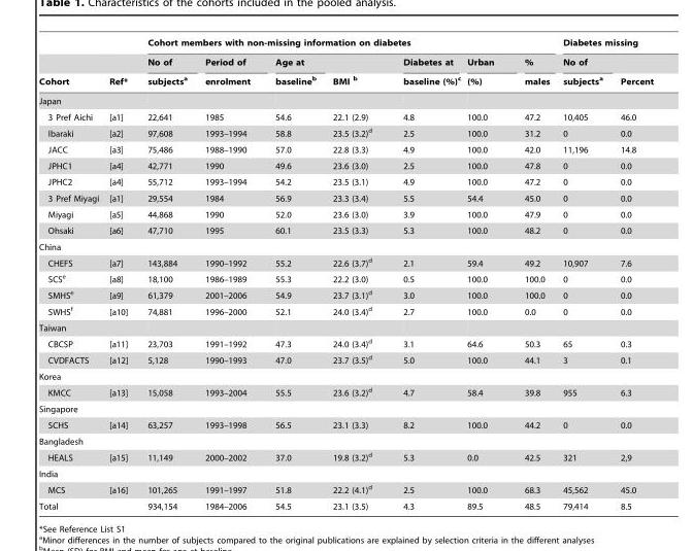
<table><thead><tr><td rowspan="3">Cohort</td><td rowspan="3">Ref*</td><td colspan="7">Cohort members with non-missing information on diabetes</td><td colspan="2">Diabetes missing</td></tr><tr><td rowspan="2">No of subjects<sup>a</sup></td><td rowspan="2">Period of enrolment</td><td rowspan="2">Age at baseline<sup>b</sup></td><td rowspan="2">BMI b</td><td rowspan="2">Diabetes at baseline (%)<sup>c</sup></td><td rowspan="2">Urban (%)</td><td rowspan="2">% males</td><td rowspan="2">No of subjects<sup>a</sup></td><td rowspan="2">Percent</td></tr><tr></tr></thead><tbody><tr><td colspan="11">Japan</td></tr><tr><td>3 Pref Aichi</td><td>[a1]</td><td>22,641</td><td>1985</td><td>54.6</td><td>22.1 (2.9)</td><td>4.8</td><td>100.0</td><td>47.2</td><td>10,405</td><td>46.0</td></tr><tr><td>Ibaraki</td><td>[a2]</td><td>97,608</td><td>1993–1994</td><td>58.8</td><td>23.5 (3.2)<sup>d</sup></td><td>2.5</td><td>100.0</td><td>31.2</td><td>0</td><td>0.0</td></tr><tr><td>JACC</td><td>[a3]</td><td>75,486</td><td>1988–1990</td><td>57.0</td><td>22.8 (3.3)</td><td>4.9</td><td>100.0</td><td>42.0</td><td>11,196</td><td>14.8</td></tr><tr><td>JPHC1</td><td>[a4]</td><td>42,771</td><td>1990</td><td>49.6</td><td>23.6 (3.0)</td><td>2.5</td><td>100.0</td><td>47.8</td><td>0</td><td>0.0</td></tr><tr><td>JPHC2</td><td>[a4]</td><td>55,712</td><td>1993–1994</td><td>54.2</td><td>23.5 (3.1)</td><td>4.9</td><td>100.0</td><td>47.2</td><td>0</td><td>0.0</td></tr><tr><td>3 Pref Miyagi</td><td>[a1]</td><td>29,554</td><td>1984</td><td>56.9</td><td>23.3 (3.4)</td><td>5.5</td><td>54.4</td><td>45.0</td><td>0</td><td>0.0</td></tr><tr><td>Miyagi</td><td>[a5]</td><td>44,868</td><td>1990</td><td>52.0</td><td>23.6 (3.0)</td><td>3.9</td><td>100.0</td><td>47.9</td><td>0</td><td>0.0</td></tr><tr><td>Ohsaki</td><td>[a6]</td><td>47,710</td><td>1995</td><td>60.1</td><td>23.5 (3.3)</td><td>5.3</td><td>100.0</td><td>48.2</td><td>0</td><td>0.0</td></tr><tr><td colspan="11">China</td></tr><tr><td>CHEFS</td><td>[a7]</td><td>143,884</td><td>1990–1992</td><td>55.2</td><td>22.6 (3.7)<sup>d</sup></td><td>2.1</td><td>59.4</td><td>49.2</td><td>10,907</td><td>7.6</td></tr><tr><td>SCS<sup>e</sup></td><td>[a8]</td><td>18,100</td><td>1986–1989</td><td>55.3</td><td>22.2 (3.0)</td><td>0.5</td><td>100.0</td><td>100.0</td><td>0</td><td>0.0</td></tr><tr><td>SMHS<sup>e</sup></td><td>[a9]</td><td>61,379</td><td>2001–2006</td><td>54.9</td><td>23.7 (3.1)<sup>d</sup></td><td>3.0</td><td>100.0</td><td>100.0</td><td>0</td><td>0.0</td></tr><tr><td>SWHS<sup>f</sup></td><td>[a10]</td><td>74,881</td><td>1996–2000</td><td>52.1</td><td>24.0 (3.4)<sup>d</sup></td><td>2.7</td><td>100.0</td><td>0.0</td><td>0</td><td>0.0</td></tr><tr><td colspan="11">Taiwan</td></tr><tr><td>CBCSP</td><td>[a11]</td><td>23,703</td><td>1991–1992</td><td>47.3</td><td>24.0 (3.4)<sup>d</sup></td><td>3.1</td><td>64.6</td><td>50.3</td><td>65</td><td>0.3</td></tr><tr><td>CVDFACTS</td><td>[a12]</td><td>5,128</td><td>1990–1993</td><td>47.0</td><td>23.7 (3.5)<sup>d</sup></td><td>5.0</td><td>100.0</td><td>44.1</td><td>3</td><td>0.1</td></tr><tr><td colspan="11">Korea</td></tr><tr><td>KMCC</td><td>[a13]</td><td>15,058</td><td>1993–2004</td><td>55.5</td><td>23.6 (3.2)<sup>d</sup></td><td>4.7</td><td>58.4</td><td>39.8</td><td>955</td><td>6.3</td></tr><tr><td colspan="11">Singapore</td></tr><tr><td>SCHS</td><td>[a14]</td><td>63,257</td><td>1993–1998</td><td>56.5</td><td>23.1 (3.3)</td><td>8.2</td><td>100.0</td><td>44.2</td><td>0</td><td>0.0</td></tr><tr><td colspan="11">Bangladesh</td></tr><tr><td>HEALS</td><td>[a15]</td><td>11,149</td><td>2000–2002</td><td>37.0</td><td>19.8 (3.2)<sup>d</sup></td><td>5.3</td><td>0.0</td><td>42.5</td><td>321</td><td>2,9</td></tr><tr><td colspan="11">India</td></tr><tr><td>MCS</td><td>[a16]</td><td>101,265</td><td>1991–1997</td><td>51.8</td><td>22.2 (4.1)<sup>d</sup></td><td>2.5</td><td>100.0</td><td>68.3</td><td>45,562</td><td>45.0</td></tr><tr><td>Total</td><td></td><td>934,154</td><td>1984–2006</td><td>54.5</td><td>23.1 (3.5)</td><td>4.3</td><td>89.5</td><td>48.5</td><td>79,414</td><td>8.5</td></tr></tbody></table>